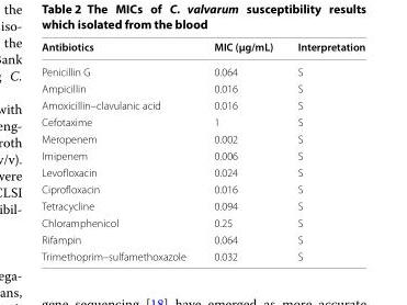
<table><thead><tr><td>Antibiotics</td><td>MIC (µg/mL)</td><td>Interpretation</td></tr></thead><tbody><tr><td>Penicillin G</td><td>0.064</td><td>S</td></tr><tr><td>Ampicillin</td><td>0.016</td><td>S</td></tr><tr><td>Amoxicillin–clavulanic acid</td><td>0.016</td><td>S</td></tr><tr><td>Cefotaxime</td><td>1</td><td>S</td></tr><tr><td>Meropenem</td><td>0.002</td><td>S</td></tr><tr><td>Imipenem</td><td>0.006</td><td>S</td></tr><tr><td>Levofloxacin</td><td>0.024</td><td>S</td></tr><tr><td>Ciprofloxacin</td><td>0.016</td><td>S</td></tr><tr><td>Tetracycline</td><td>0.094</td><td>S</td></tr><tr><td>Chloramphenicol</td><td>0.25</td><td>S</td></tr><tr><td>Rifampin</td><td>0.064</td><td>S</td></tr><tr><td>Trimethoprim–sulfamethoxazole</td><td>0.032</td><td>S</td></tr></tbody></table>